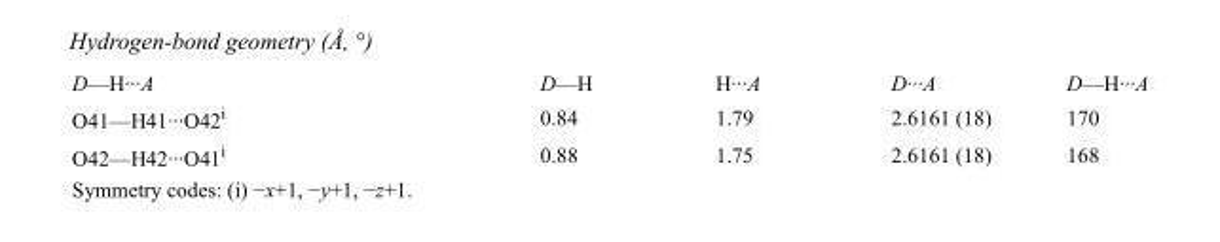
<table><tbody><tr><td>D—H···A</td><td>D—H</td><td>H···A</td><td>D···A</td><td>D—H···A</td></tr><tr><td>O41—H41···O42<sup>i</sup></td><td>0.84</td><td>1.79</td><td>2.6161 (18)</td><td>170</td></tr><tr><td>O42—H42···O41<sup>i</sup></td><td>0.88</td><td>1.75</td><td>2.6161 (18)</td><td>168</td></tr></tbody></table>